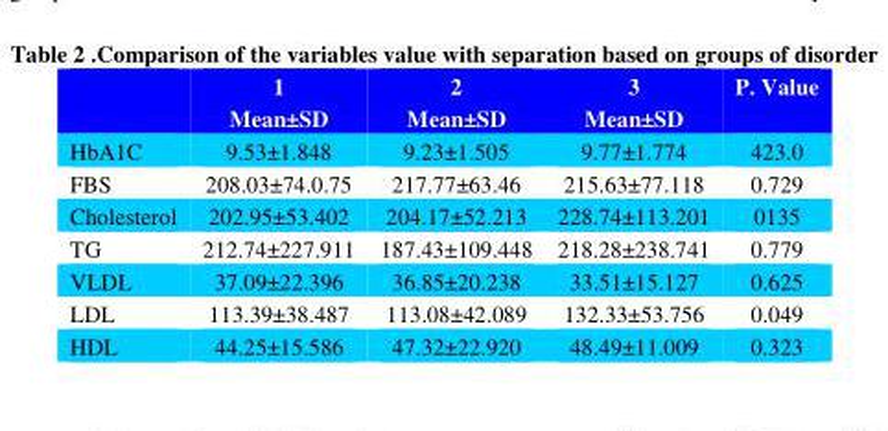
<table><thead><tr><td></td><td>1 Mean±SD</td><td>2 Mean±SD</td><td>3 Mean±SD</td><td>P. Value</td></tr></thead><tbody><tr><td>HbA1C</td><td>9.53±1.848</td><td>9.23±1.505</td><td>9.77±1.774</td><td>423.0</td></tr><tr><td>FBS</td><td>208.03±74.0.75</td><td>217.77±63.46</td><td>215.63±77.118</td><td>0.729</td></tr><tr><td>Cholesterol</td><td>202.95±53.402</td><td>204.17±52.213</td><td>228.74±113.201</td><td>0135</td></tr><tr><td>TG</td><td>212.74±227.911</td><td>187.43±109.448</td><td>218.28±238.741</td><td>0.779</td></tr><tr><td>VLDL</td><td>37.09±22.396</td><td>36.85±20.238</td><td>33.51±15.127</td><td>0.625</td></tr><tr><td>LDL</td><td>113.39±38.487</td><td>113.08±42.089</td><td>132.33±53.756</td><td>0.049</td></tr><tr><td>HDL</td><td>44.25±15.586</td><td>47.32±22.920</td><td>48.49±11.009</td><td>0.323</td></tr></tbody></table>